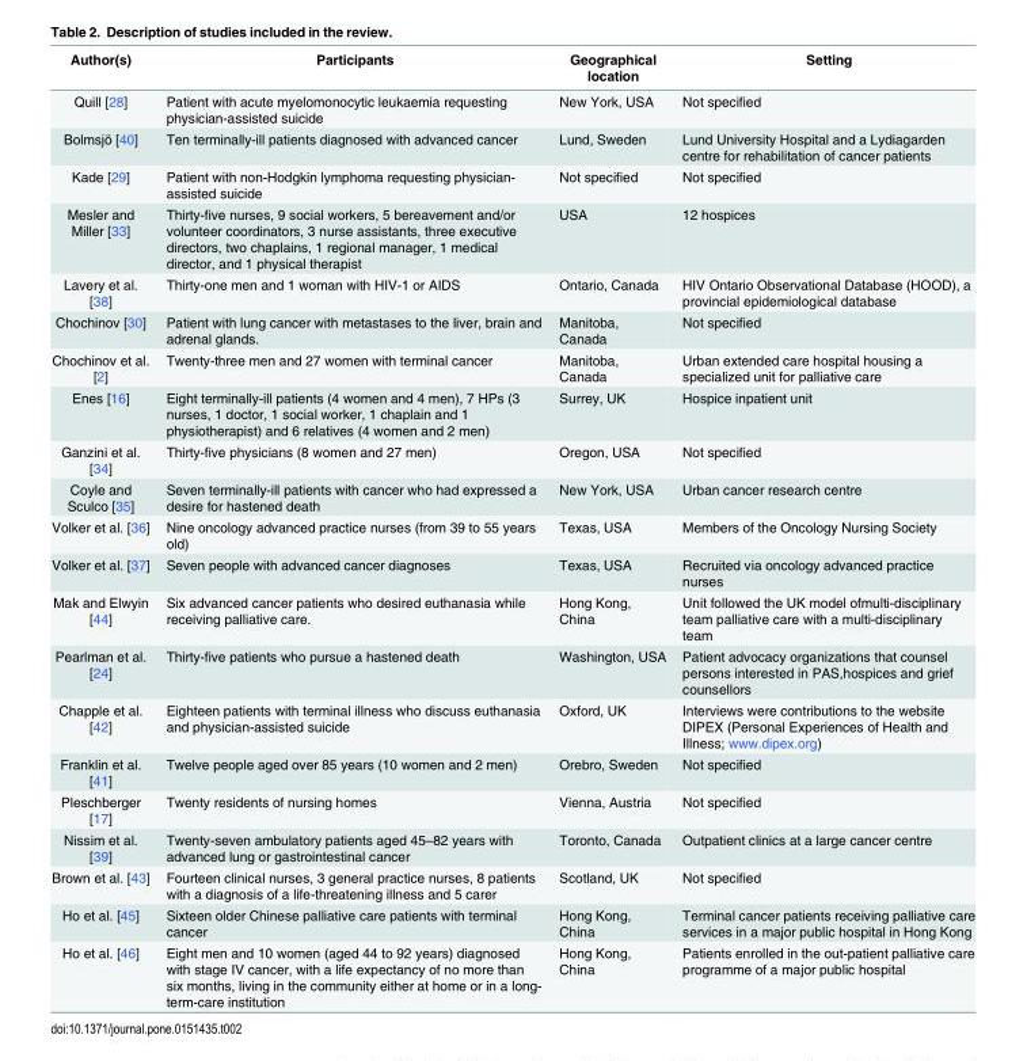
<table><thead><tr><td>Author(s)</td><td>Participants</td><td>Geographical location</td><td>Setting</td></tr></thead><tbody><tr><td>Quill [28]</td><td>Patient with acute myelomonocytic leukaemia requesting physician-assisted suicide</td><td>New York, USA</td><td>Not specified</td></tr><tr><td>Bolmsjö [40]</td><td>Ten terminally-ill patients diagnosed with advanced cancer</td><td>Lund, Sweden</td><td>Lund University Hospital and a Lydiagarden centre for rehabilitation of cancer patients</td></tr><tr><td>Kade [29]</td><td>Patient with non-Hodgkin lymphoma requesting physician- assisted suicide</td><td>Not specified</td><td>Not specified</td></tr><tr><td>Mesler and Miller [33]</td><td>Thirty-five nurses, 9 social workers, 5 bereavement and/or volunteer coordinators, 3 nurse assistants, three executive directors, two chaplains, 1 regional manager, 1 medical director, and 1 physical therapist</td><td>USA</td><td>12 hospices</td></tr><tr><td>Lavery et al. [38]</td><td>Thirty-one men and 1 woman with HIV-1 or AIDS</td><td>Ontario, Canada</td><td>HIV Ontario Observational Database (HOOD), a provincial epidemiological database</td></tr><tr><td>Chochinov [30]</td><td>Patient with lung cancer with metastases to the liver, brain and adrenal glands.</td><td>Manitoba, Canada</td><td>Not specified</td></tr><tr><td>Chochinov et al. [2]</td><td>Twenty-three men and 27 women with terminal cancer</td><td>Manitoba, Canada</td><td>Urban extended care hospital housing a specialized unit for palliative care</td></tr><tr><td>Enes [16]</td><td>Eight terminally-ill patients (4 women and 4 men), 7 HPs (3 nurses, 1 doctor, 1 social worker, 1 chaplain and 1 physiotherapist) and 6 relatives (4 women and 2 men)</td><td>Surrey, UK</td><td>Hospice inpatient unit</td></tr><tr><td>Ganzini et al. [34]</td><td>Thirty-five physicians (8 women and 27 men)</td><td>Oregon, USA</td><td>Not specified</td></tr><tr><td>Coyle and Sculco [35]</td><td>Seven terminally-ill patients with cancer who had expressed a desire for hastened death</td><td>New York, USA</td><td>Urban cancer research centre</td></tr><tr><td>Volker et al. [36]</td><td>Nine oncology advanced practice nurses (from 39 to 55 years old)</td><td>Texas, USA</td><td>Members of the Oncology Nursing Society</td></tr><tr><td>Volker et al. [37]</td><td>Seven people with advanced cancer diagnoses</td><td>Texas, USA</td><td>Recruited via oncology advanced practice nurses</td></tr><tr><td>Mak and Elwyin [44]</td><td>Six advanced cancer patients who desired euthanasia while receiving palliative care.</td><td>Hong Kong, China</td><td>Unit followed the UK model ofmulti-disciplinary team palliative care with a multi-disciplinary team</td></tr><tr><td>Pearlman et al. [24]</td><td>Thirty-five patients who pursue a hastened death</td><td>Washington, USA</td><td>Patient advocacy organizations that counsel persons interested in PAS,hospices and grief counsellors</td></tr><tr><td>Chapple et al. [42]</td><td>Eighteen patients with terminal illness who discuss euthanasia and physician-assisted suicide</td><td>Oxford, UK</td><td>Interviews were contributions to the website DIPEX (Personal Experiences of Health and Illness; www.dipex.org)</td></tr><tr><td>Franklin et al. [41]</td><td>Twelve people aged over 85 years (10 women and 2 men)</td><td>Orebro, Sweden</td><td>Not specified</td></tr><tr><td>Pleschberger [17]</td><td>Twenty residents of nursing homes</td><td>Vienna, Austria</td><td>Not specified</td></tr><tr><td>Nissim et al. [39]</td><td>Twenty-seven ambulatory patients aged 45–82 years with advanced lung or gastrointestinal cancer</td><td>Toronto, Canada</td><td>Outpatient clinics at a large cancer centre</td></tr><tr><td>Brown et al. [43]</td><td>Fourteen clinical nurses, 3 general practice nurses, 8 patients with a diagnosis of a life-threatening illness and 5 carer</td><td>Scotland, UK</td><td>Not specified</td></tr><tr><td>Ho et al. [45]</td><td>Sixteen older Chinese palliative care patients with terminal cancer</td><td>Hong Kong, China</td><td>Terminal cancer patients receiving palliative care services in a major public hospital in Hong Kong</td></tr><tr><td>Ho et al. [46]</td><td>Eight men and 10 women (aged 44 to 92 years) diagnosed with stage IV cancer, with a life expectancy of no more than six months, living in the community either at home or in a long- term-care institution</td><td>Hong Kong, China</td><td>Patients enrolled in the out-patient palliative care programme of a major public hospital</td></tr></tbody></table>